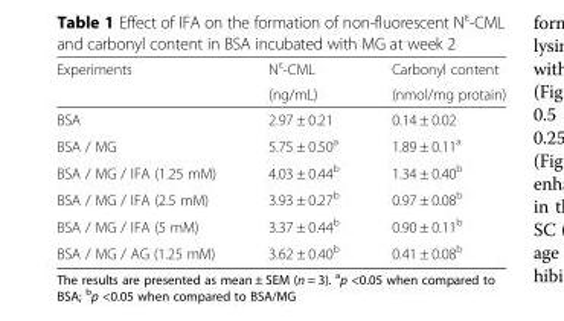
<table><thead><tr><td rowspan="2">Experiments</td><td rowspan="2">N<sup>ε</sup>-CML (ng/mL)</td><td rowspan="2">Carbonyl content (nmol/mg protain)</td></tr><tr></tr></thead><tbody><tr><td>BSA</td><td>2.97 ± 0.21</td><td>0.14 ± 0.02</td></tr><tr><td>BSA / MG</td><td>5.75 ± 0.50<sup>a</sup></td><td>1.89 ± 0.11<sup>a</sup></td></tr><tr><td>BSA / MG / IFA (1.25 mM)</td><td>4.03 ± 0.44<sup>b</sup></td><td>1.34 ± 0.40<sup>b</sup></td></tr><tr><td>BSA / MG / IFA (2.5 mM)</td><td>3.93 ± 0.27<sup>b</sup></td><td>0.97 ± 0.08<sup>b</sup></td></tr><tr><td>BSA / MG / IFA (5 mM)</td><td>3.37 ± 0.44<sup>b</sup></td><td>0.90 ± 0.11<sup>b</sup></td></tr><tr><td>BSA / MG / AG (1.25 mM)</td><td>3.62 ± 0.40<sup>b</sup></td><td>0.41 ± 0.08<sup>b</sup></td></tr></tbody></table>